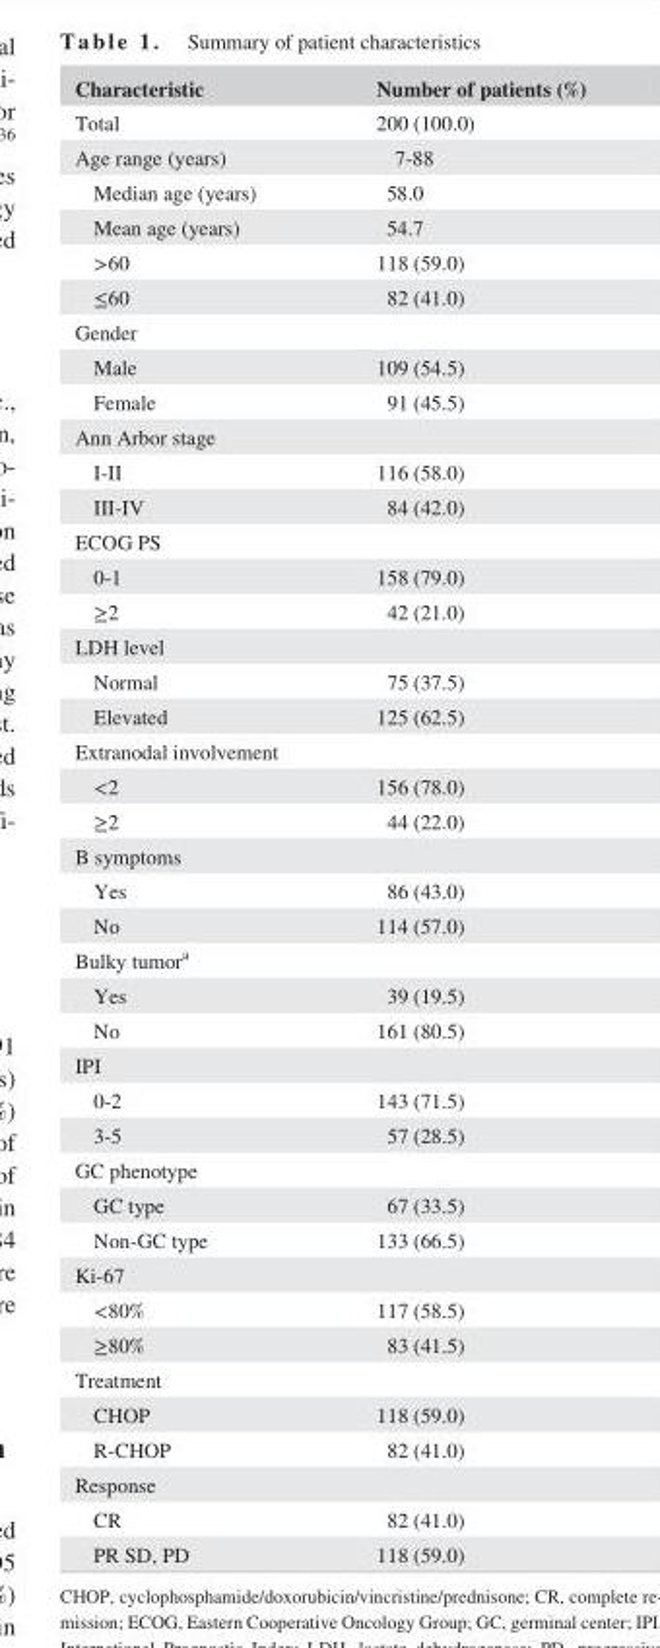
<table><thead><tr><td>Characteristic</td><td>Number of patients (%)</td></tr></thead><tbody><tr><td>Total</td><td>200 (100.0)</td></tr><tr><td>Age range (years)</td><td>7- 88</td></tr><tr><td>Median age (years)</td><td>58.0</td></tr><tr><td>Mean age (years)</td><td>54.7</td></tr><tr><td>&gt;60</td><td>118 (59.0)</td></tr><tr><td>≤60</td><td>82 (41.0)</td></tr><tr><td colspan="2">Gender</td></tr><tr><td>Male</td><td>109 (54.5)</td></tr><tr><td>Female</td><td>91 (45.5)</td></tr><tr><td colspan="2">Ann Arbor stage</td></tr><tr><td>I- II</td><td>116 (58.0)</td></tr><tr><td>III- IV</td><td>84 (42.0)</td></tr><tr><td colspan="2">ECOG PS</td></tr><tr><td>0- 1</td><td>158 (79.0)</td></tr><tr><td>≥2</td><td>42 (21.0)</td></tr><tr><td colspan="2">LDH level</td></tr><tr><td>Normal</td><td>75 (37.5)</td></tr><tr><td>Elevated</td><td>125 (62.5)</td></tr><tr><td colspan="2">Extranodal involvement</td></tr><tr><td>&lt;2</td><td>156 (78.0)</td></tr><tr><td>≥2</td><td>44 (22.0)</td></tr><tr><td colspan="2">B symptoms</td></tr><tr><td>Yes</td><td>86 (43.0)</td></tr><tr><td>No</td><td>114 (57.0)</td></tr><tr><td colspan="2">Bulky tumor<sup>a</sup></td></tr><tr><td>Yes</td><td>39 (19.5)</td></tr><tr><td>No</td><td>161 (80.5)</td></tr><tr><td colspan="2">IPI</td></tr><tr><td>0- 2</td><td>143 (71.5)</td></tr><tr><td>3- 5</td><td>57 (28.5)</td></tr><tr><td colspan="2">GC phenotype</td></tr><tr><td>GC type</td><td>67 (33.5)</td></tr><tr><td>Non- GC type</td><td>133 (66.5)</td></tr><tr><td colspan="2">Ki- 67</td></tr><tr><td>&lt;80%</td><td>117 (58.5)</td></tr><tr><td>≥80%</td><td>83 (41.5)</td></tr><tr><td colspan="2">Treatment</td></tr><tr><td>CHOP</td><td>118 (59.0)</td></tr><tr><td>R- CHOP</td><td>82 (41.0)</td></tr><tr><td colspan="2">Response</td></tr><tr><td>CR</td><td>82 (41.0)</td></tr><tr><td>PR SD, PD</td><td>118 (59.0)</td></tr></tbody></table>